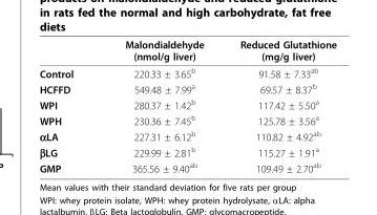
<table><thead><tr><td></td><td>Malondialdehyde (nmol/g liver)</td><td>Reduced Glutathione (mg/g liver)</td></tr></thead><tbody><tr><td>Control</td><td>220.33 ± 3.65<sup>b</sup></td><td>91.58 ± 7.33<sup>ab</sup></td></tr><tr><td>HCFFD</td><td>549.48 ± 7.99<sup>a</sup></td><td>69.57 ± 8.37<sup>b</sup></td></tr><tr><td>WPI</td><td>280.37 ± 1.42<sup>b</sup></td><td>117.42 ± 5.50<sup>a</sup></td></tr><tr><td>WPH</td><td>230.36 ± 7.45<sup>b</sup></td><td>125.78 ± 3.56<sup>a</sup></td></tr><tr><td>αLA</td><td>227.31 ± 6.12<sup>b</sup></td><td>110.82 ± 4.92<sup>ab</sup></td></tr><tr><td>βLG</td><td>229.99 ± 2.81<sup>b</sup></td><td>115.27 ± 1.91<sup>a</sup></td></tr><tr><td>GMP</td><td>365.56 ± 9.40<sup>ab</sup></td><td>109.49 ± 2.70<sup>ab</sup></td></tr></tbody></table>